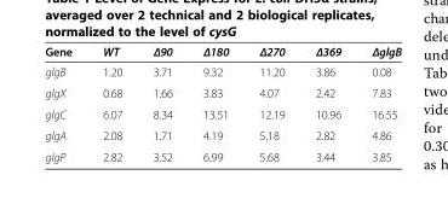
<table><thead><tr><td>Gene</td><td>WT</td><td>Δ90</td><td>Δ180</td><td>Δ270</td><td>Δ369</td><td>ΔglgB</td></tr></thead><tbody><tr><td>glgB</td><td>1.20</td><td>3.71</td><td>9.32</td><td>11.20</td><td>3.86</td><td>0.08</td></tr><tr><td>glgX</td><td>0.68</td><td>1.66</td><td>3.83</td><td>4.07</td><td>2.42</td><td>7.83</td></tr><tr><td>glgC</td><td>6.07</td><td>8.34</td><td>13.51</td><td>12.19</td><td>10.96</td><td>16.55</td></tr><tr><td>glgA</td><td>2.08</td><td>1.71</td><td>4.19</td><td>5.18</td><td>2.82</td><td>4.86</td></tr><tr><td>glgP</td><td>2.82</td><td>3.52</td><td>6.99</td><td>5.68</td><td>3.44</td><td>3.85</td></tr></tbody></table>